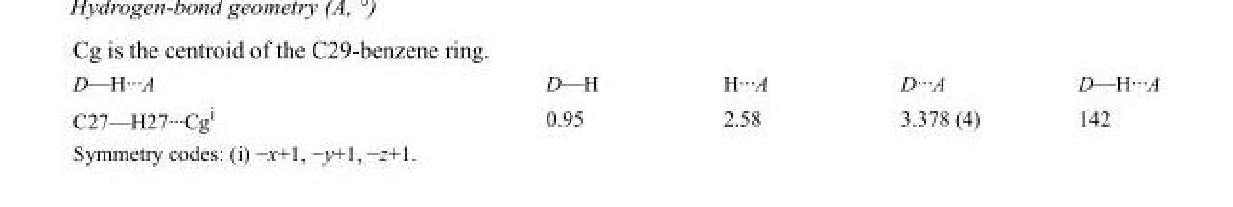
<table><tbody><tr><td>D—H···A</td><td>D—H</td><td>H···A</td><td>D···A</td><td>D—H···A</td></tr><tr><td>C27—H27···Cg<sup>i</sup></td><td>0.95</td><td>2.58</td><td>3.378 (4)</td><td>142</td></tr></tbody></table>